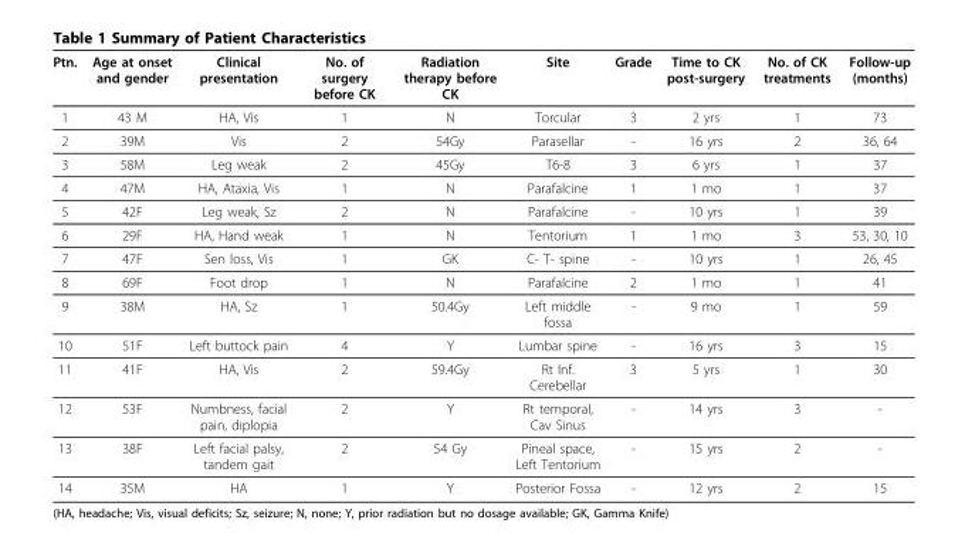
<table><thead><tr><td>Ptn.</td><td>Age at onset and gender</td><td>Clinical presentation</td><td>No. of surgery before CK</td><td>Radiation therapy before CK</td><td>Site</td><td>Grade</td><td>Time to CK post-surgery</td><td>No. of CK treatments</td><td>Follow-up (months)</td></tr></thead><tbody><tr><td>1</td><td>43 M</td><td>HA, Vis</td><td>1</td><td>N</td><td>Torcular</td><td>3</td><td>2 yrs</td><td>1</td><td>73</td></tr><tr><td>2</td><td>39M</td><td>Vis</td><td>2</td><td>54Gy</td><td>Parasellar</td><td>-</td><td>16 yrs</td><td>2</td><td>36, 64</td></tr><tr><td>3</td><td>58M</td><td>Leg weak</td><td>2</td><td>45Gy</td><td>T6-8</td><td>3</td><td>6 yrs</td><td>1</td><td>37</td></tr><tr><td>4</td><td>47M</td><td>HA, Ataxia, Vis</td><td>1</td><td>N</td><td>Parafalcine</td><td>1</td><td>1 mo</td><td>1</td><td>37</td></tr><tr><td>5</td><td>42F</td><td>Leg weak, Sz</td><td>2</td><td>N</td><td>Parafalcine</td><td>-</td><td>10 yrs</td><td>1</td><td>39</td></tr><tr><td>6</td><td>29F</td><td>HA, Hand weak</td><td>1</td><td>N</td><td>Tentorium</td><td>1</td><td>1 mo</td><td>3</td><td>53, 30, 10</td></tr><tr><td>7</td><td>47F</td><td>Sen loss, Vis</td><td>1</td><td>GK</td><td>C- T- spine</td><td>-</td><td>10 yrs</td><td>1</td><td>26, 45</td></tr><tr><td>8</td><td>69F</td><td>Foot drop</td><td>1</td><td>N</td><td>Parafalcine</td><td>2</td><td>1 mo</td><td>1</td><td>41</td></tr><tr><td>9</td><td>38M</td><td>HA, Sz</td><td>1</td><td>50.4Gy</td><td>Left middle fossa</td><td>-</td><td>9 mo</td><td>1</td><td>59</td></tr><tr><td>10</td><td>51F</td><td>Left buttock pain</td><td>4</td><td>Y</td><td>Lumbar spine</td><td>-</td><td>16 yrs</td><td>3</td><td>15</td></tr><tr><td>11</td><td>41F</td><td>HA, Vis</td><td>2</td><td>59.4Gy</td><td>Rt Inf. Cerebellar</td><td>3</td><td>5 yrs</td><td>1</td><td>30</td></tr><tr><td>12</td><td>53F</td><td>Numbness, facial pain, diplopia</td><td>2</td><td>Y</td><td>Rt temporal, Cav Sinus</td><td>-</td><td>14 yrs</td><td>3</td><td>-</td></tr><tr><td>13</td><td>38F</td><td>Left facial palsy, tandem gait</td><td>2</td><td>54 Gy</td><td>Pineal space, Left Tentorium</td><td>-</td><td>15 yrs</td><td>2</td><td>-</td></tr><tr><td>14</td><td>35M</td><td>HA</td><td>1</td><td>Y</td><td>Posterior Fossa</td><td>-</td><td>12 yrs</td><td>2</td><td>15</td></tr></tbody></table>